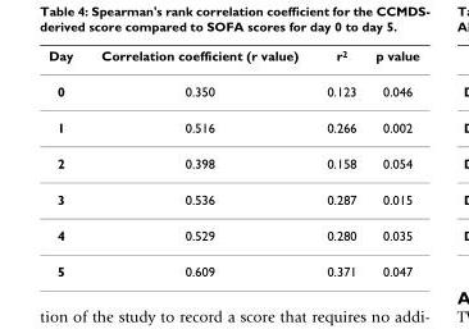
<table><thead><tr><td>Day</td><td>Correlation coefficient (r value)</td><td>r<sup>2</sup></td><td>p value</td></tr></thead><tbody><tr><td>0</td><td>0.350</td><td>0.123</td><td>0.046</td></tr><tr><td>1</td><td>0.516</td><td>0.266</td><td>0.002</td></tr><tr><td>2</td><td>0.398</td><td>0.158</td><td>0.054</td></tr><tr><td>3</td><td>0.536</td><td>0.287</td><td>0.015</td></tr><tr><td>4</td><td>0.529</td><td>0.280</td><td>0.035</td></tr><tr><td>5</td><td>0.609</td><td>0.371</td><td>0.047</td></tr></tbody></table>